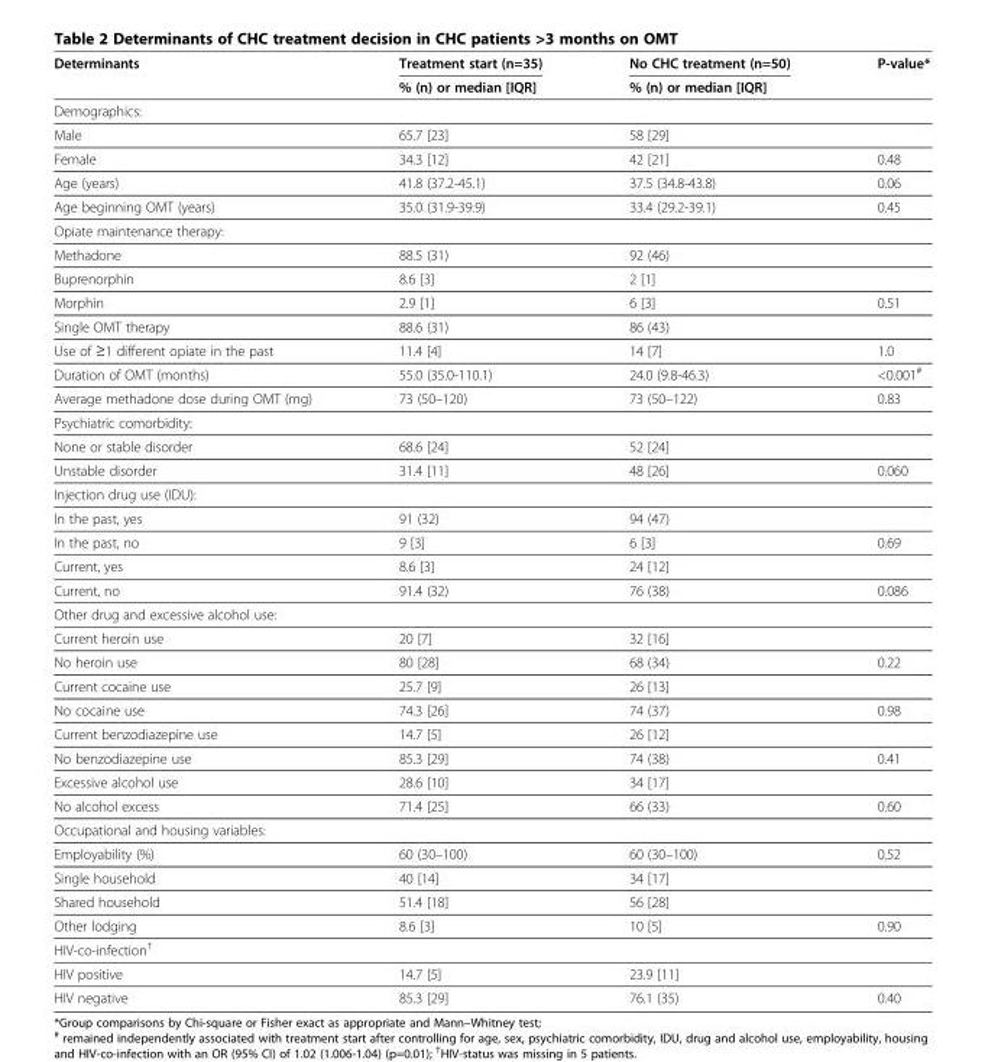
<table><thead><tr><td rowspan="2">Determinants</td><td rowspan="2">Treatment start (n=35) % (n) or median [IQR]</td><td rowspan="2">No CHC treatment (n=50) % (n) or median [IQR]</td><td rowspan="2">P-value*</td></tr><tr></tr></thead><tbody><tr><td colspan="4">Demographics:</td></tr><tr><td>Male</td><td>65.7 [23]</td><td>58 [29]</td><td></td></tr><tr><td>Female</td><td>34.3 [12]</td><td>42 [21]</td><td>0.48</td></tr><tr><td>Age (years)</td><td>41.8 (37.2-45.1)</td><td>37.5 (34.8-43.8)</td><td>0.06</td></tr><tr><td>Age beginning OMT (years)</td><td>35.0 (31.9-39.9)</td><td>33.4 (29.2-39.1)</td><td>0.45</td></tr><tr><td colspan="4">Opiate maintenance therapy:</td></tr><tr><td>Methadone</td><td>88.5 (31)</td><td>92 (46)</td><td></td></tr><tr><td>Buprenorphin</td><td>8.6 [3]</td><td>2 [1]</td><td></td></tr><tr><td>Morphin</td><td>2.9 [1]</td><td>6 [3]</td><td>0.51</td></tr><tr><td>Single OMT therapy</td><td>88.6 (31)</td><td>86 (43)</td><td></td></tr><tr><td>Use of ≥1 different opiate in the past</td><td>11.4 [4]</td><td>14 [7]</td><td>1.0</td></tr><tr><td>Duration of OMT (months)</td><td>55.0 (35.0-110.1)</td><td>24.0 (9.8-46.3)</td><td>&lt;0.001<sup>#</sup></td></tr><tr><td>Average methadone dose during OMT (mg)</td><td>73 (50–120)</td><td>73 (50–122)</td><td>0.83</td></tr><tr><td colspan="4">Psychiatric comorbidity:</td></tr><tr><td>None or stable disorder</td><td>68.6 [24]</td><td>52 [24]</td><td></td></tr><tr><td>Unstable disorder</td><td>31.4 [11]</td><td>48 [26]</td><td>0.060</td></tr><tr><td colspan="4">Injection drug use (IDU):</td></tr><tr><td>In the past, yes</td><td>91 (32)</td><td>94 (47)</td><td></td></tr><tr><td>In the past, no</td><td>9 [3]</td><td>6 [3]</td><td>0.69</td></tr><tr><td>Current, yes</td><td>8.6 [3]</td><td>24 [12]</td><td></td></tr><tr><td>Current, no</td><td>91.4 (32)</td><td>76 (38)</td><td>0.086</td></tr><tr><td colspan="4">Other drug and excessive alcohol use:</td></tr><tr><td>Current heroin use</td><td>20 [7]</td><td>32 [16]</td><td></td></tr><tr><td>No heroin use</td><td>80 [28]</td><td>68 (34)</td><td>0.22</td></tr><tr><td>Current cocaine use</td><td>25.7 [9]</td><td>26 [13]</td><td></td></tr><tr><td>No cocaine use</td><td>74.3 [26]</td><td>74 (37)</td><td>0.98</td></tr><tr><td>Current benzodiazepine use</td><td>14.7 [5]</td><td>26 [12]</td><td></td></tr><tr><td>No benzodiazepine use</td><td>85.3 [29]</td><td>74 (38)</td><td>0.41</td></tr><tr><td>Excessive alcohol use</td><td>28.6 [10]</td><td>34 [17]</td><td></td></tr><tr><td>No alcohol excess</td><td>71.4 [25]</td><td>66 (33)</td><td>0.60</td></tr><tr><td colspan="4">Occupational and housing variables:</td></tr><tr><td>Employability (%)</td><td>60 (30–100)</td><td>60 (30–100)</td><td>0.52</td></tr><tr><td>Single household</td><td>40 [14]</td><td>34 [17]</td><td></td></tr><tr><td>Shared household</td><td>51.4 [18]</td><td>56 [28]</td><td></td></tr><tr><td>Other lodging</td><td>8.6 [3]</td><td>10 [5]</td><td>0.90</td></tr><tr><td colspan="4">HIV-co-infection<sup>†</sup></td></tr><tr><td>HIV positive</td><td>14.7 [5]</td><td>23.9 [11]</td><td></td></tr><tr><td>HIV negative</td><td>85.3 [29]</td><td>76.1 (35)</td><td>0.40</td></tr></tbody></table>